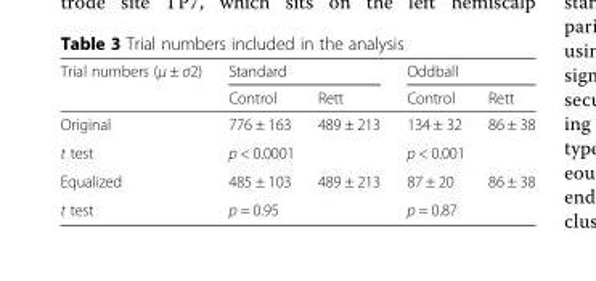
<table><thead><tr><td rowspan="2">Trial numbers (μ ± σ2)</td><td colspan="2">Standard</td><td colspan="2">Oddball</td></tr><tr><td>Control</td><td>Rett</td><td>Control</td><td>Rett</td></tr></thead><tbody><tr><td>Original</td><td>776 ± 163</td><td>489 ± 213</td><td>134 ± 32</td><td>86 ± 38</td></tr><tr><td>t test</td><td colspan="2">p &lt; 0.0001</td><td colspan="2">p &lt; 0.001</td></tr><tr><td>Equalized</td><td>485 ± 103</td><td>489 ± 213</td><td>87 ± 20</td><td>86 ± 38</td></tr><tr><td>t test</td><td colspan="2">p = 0.95</td><td colspan="2">p = 0.87</td></tr></tbody></table>